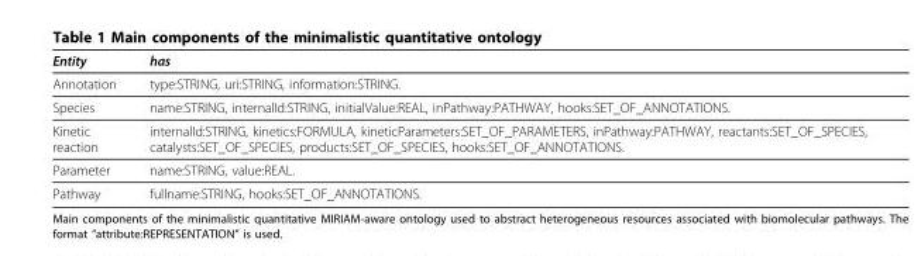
<table><thead><tr><td>Entity</td><td>has</td></tr></thead><tbody><tr><td>Annotation</td><td>type:STRING, uri:STRING, information:STRING.</td></tr><tr><td>Species</td><td>name:STRING, internalId:STRING, initialValue:REAL, inPathway:PATHWAY, hooks:SET_OF_ANNOTATIONS.</td></tr><tr><td>Kinetic reaction</td><td>internalId:STRING, kinetics:FORMULA, kineticParameters:SET_OF_PARAMETERS, inPathway:PATHWAY, reactants:SET_OF_SPECIES, catalysts:SET_OF_SPECIES, products:SET_OF_SPECIES, hooks:SET_OF_ANNOTATIONS.</td></tr><tr><td>Parameter</td><td>name:STRING, value:REAL.</td></tr><tr><td>Pathway</td><td>fullname:STRING, hooks:SET_OF_ANNOTATIONS.</td></tr></tbody></table>